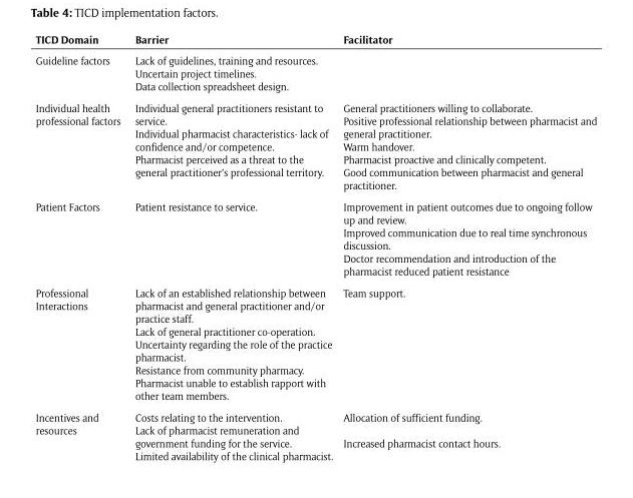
<table><thead><tr><td>TICD Domain</td><td>Barrier</td><td>Facilitator</td></tr></thead><tbody><tr><td>Guideline factors</td><td>Lack of guidelines, training and resources. Uncertain project timelines. Data collection spreadsheet design.</td><td></td></tr><tr><td>Individual health professional factors</td><td>Individual general practitioners resistant to service. Individual pharmacist characteristics- lack of confidence and/or competence. Pharmacist perceived as a threat to the general practitioner’s professional territory.</td><td>General practitioners willing to collaborate. Positive professional relationship between pharmacist and general practitioner. Warm handover. Pharmacist proactive and clinically competent. Good communication between pharmacist and general practitioner.</td></tr><tr><td>Patient Factors</td><td>Patient resistance to service.</td><td>Improvement in patient outcomes due to ongoing follow up and review. Improved communication due to real time synchronous discussion. Doctor recommendation and introduction of the pharmacist reduced patient resistance</td></tr><tr><td>Professional Interactions</td><td>Lack of an established relationship between pharmacist and general practitioner and/or practice staff. Lack of general practitioner co-operation. Uncertainty regarding the role of the practice pharmacist. Resistance from community pharmacy. Pharmacist unable to establish rapport with other team members.</td><td>Team support.</td></tr><tr><td>Incentives and resources</td><td>Costs relating to the intervention. Lack of pharmacist remuneration and government funding for the service. Limited availability of the clinical pharmacist.</td><td>Allocation of sufficient funding. Increased pharmacist contact hours.</td></tr></tbody></table>